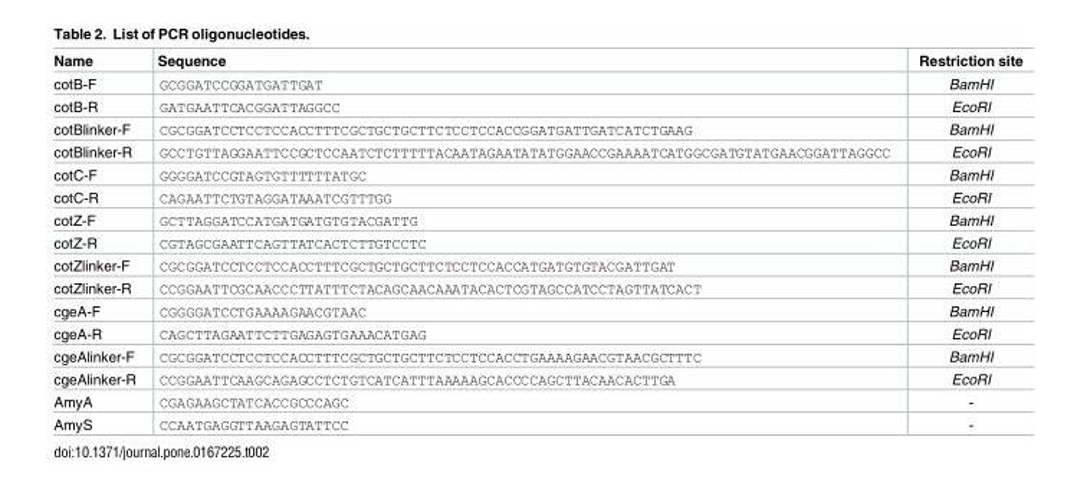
<table><thead><tr><td>Name</td><td>Sequence</td><td>Restriction site</td></tr></thead><tbody><tr><td>cotB-F</td><td>GCGGATCCGGATGATTGAT</td><td>BamHI</td></tr><tr><td>cotB-R</td><td>GATGAATTCACGGATTAGGCC</td><td>EcoRI</td></tr><tr><td>cotBlinker-F</td><td>CGCGGATCCTCCTCCACCTTTCGCTGCTGCTTCTCCTCCACCGGATGATTGATCATCTGAAG</td><td>BamHI</td></tr><tr><td>cotBlinker-R</td><td>GCCTGTTAGGAATTCCGCTCCAATCTCTTTTTACAATAGAATATATGGAACCGAAAATCATGGCGATGTATGAACGGATTAGGCC</td><td>EcoRI</td></tr><tr><td>cotC-F</td><td>GGGGATCCGTAGTGTTTTTTATGC</td><td>BamHI</td></tr><tr><td>cotC-R</td><td>CAGAATTCTGTAGGATAAATCGTTTGG</td><td>EcoRI</td></tr><tr><td>cotZ-F</td><td>GCTTAGGATCCATGATGATGTGTACGATTG</td><td>BamHI</td></tr><tr><td>cotZ-R</td><td>CGTAGCGAATTCAGTTATCACTCTTGTCCTC</td><td>EcoRI</td></tr><tr><td>cotZlinker-F</td><td>CGCGGATCCTCCTCCACCTTTCGCTGCTGCTTCTCCTCCACCATGATGTGTACGATTGAT</td><td>BamHI</td></tr><tr><td>cotZlinker-R</td><td>CCGGAATTCGCAACCCTTATTTCTACAGCAACAAATACACTCGTAGCCATCCTAGTTATCACT</td><td>EcoRI</td></tr><tr><td>cgeA-F</td><td>CGGGGATCCTGAAAAGAACGTAAC</td><td>BamHI</td></tr><tr><td>cgeA-R</td><td>CAGCTTAGAATTCTTGAGAGTGAAACATGAG</td><td>EcoRI</td></tr><tr><td>cgeAlinker-F</td><td>CGCGGATCCTCCTCCACCTTTCGCTGCTGCTTCTCCTCCACCTGAAAAGAACGTAACGCTTTC</td><td>BamHI</td></tr><tr><td>cgeAlinker-R</td><td>CCGGAATTCAAGCAGAGCCTCTGTCATCATTTAAAAAGCACCCCAGCTTACAACACTTGA</td><td>EcoRI</td></tr><tr><td>AmyA</td><td>CGAGAAGCTATCACCGCCCAGC</td><td>-</td></tr><tr><td>AmyS</td><td>CCAATGAGGTTAAGAGTATTCC</td><td>-</td></tr></tbody></table>